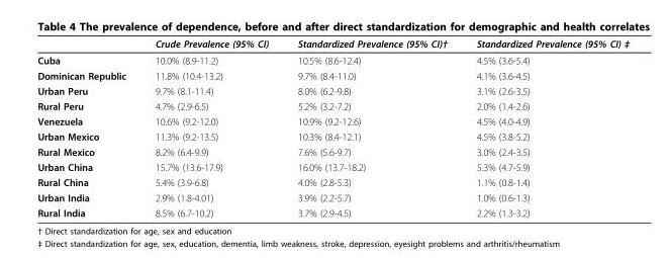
<table><thead><tr><td></td><td>Crude Prevalence (95% CI)</td><td>Standardized Prevalence (95% CI)†</td><td>Standardized Prevalence (95% CI) ‡</td></tr></thead><tbody><tr><td>Cuba</td><td>10.0% (8.9-11.2)</td><td>10.5% (8.6-12.4)</td><td>4.5% (3.6-5.4)</td></tr><tr><td>Dominican Republic</td><td>11.8% (10.4-13.2)</td><td>9.7% (8.4-11.0)</td><td>4.1% (3.6-4.5)</td></tr><tr><td>Urban Peru</td><td>9.7% (8.1-11.4)</td><td>8.0% (6.2-9.8)</td><td>3.1% (2.6-3.5)</td></tr><tr><td>Rural Peru</td><td>4.7% (2.9-6.5)</td><td>5.2% (3.2-7.2)</td><td>2.0% (1.4-2.6)</td></tr><tr><td>Venezuela</td><td>10.6% (9.2-12.0)</td><td>10.9% (9.2-12.6)</td><td>4.5% (4.0-4.9)</td></tr><tr><td>Urban Mexico</td><td>11.3% (9.2-13.5)</td><td>10.3% (8.4-12.1)</td><td>4.5% (3.8-5.2)</td></tr><tr><td>Rural Mexico</td><td>8.2% (6.4-9.9)</td><td>7.6% (5.6-9.7)</td><td>3.0% (2.4-3.5)</td></tr><tr><td>Urban China</td><td>15.7% (13.6-17.9)</td><td>16.0% (13.7-18.2)</td><td>5.3% (4.7-5.9)</td></tr><tr><td>Rural China</td><td>5.4% (3.9-6.8)</td><td>4.0% (2.8-5.3)</td><td>1.1% (0.8-1.4)</td></tr><tr><td>Urban India</td><td>2.9% (1.8-4.01)</td><td>3.9% (2.2-5.7)</td><td>1.0% (0.6-1.3)</td></tr><tr><td>Rural India</td><td>8.5% (6.7-10.2)</td><td>3.7% (2.9-4.5)</td><td>2.2% (1.3-3.2)</td></tr></tbody></table>